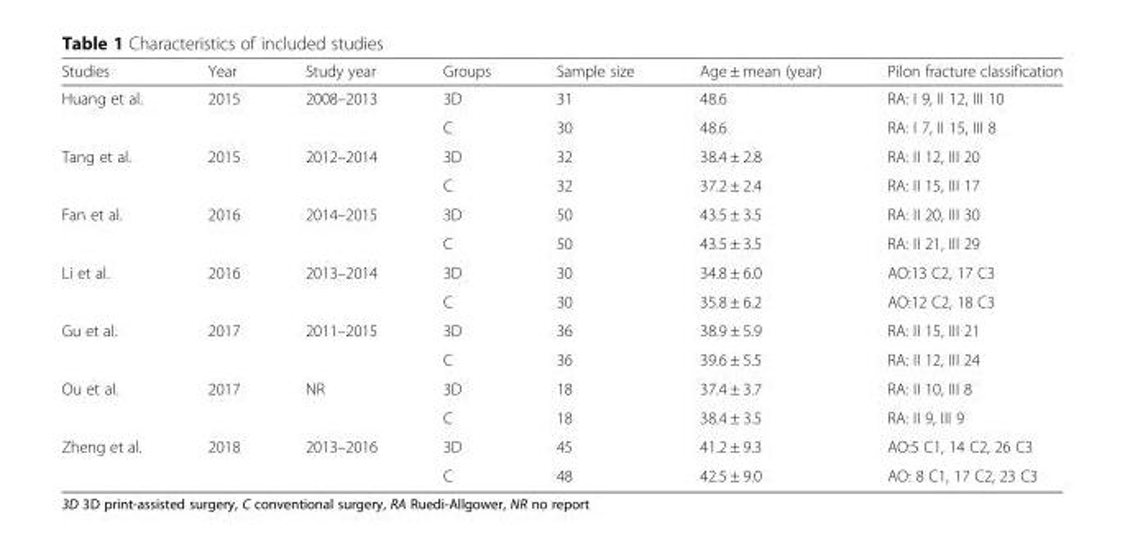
<table><thead><tr><td>Studies</td><td>Year</td><td>Study year</td><td>Groups</td><td>Sample size</td><td>Age ± mean (year)</td><td>Pilon fracture classification</td></tr></thead><tbody><tr><td rowspan="2">Huang et al.</td><td rowspan="2">2015</td><td rowspan="2">2008–2013</td><td>3D</td><td>31</td><td>48.6</td><td>RA: I 9, II 12, III 10</td></tr><tr><td>C</td><td>30</td><td>48.6</td><td>RA: I 7, II 15, III 8</td></tr><tr><td rowspan="2">Tang et al.</td><td rowspan="2">2015</td><td rowspan="2">2012–2014</td><td>3D</td><td>32</td><td>38.4 ± 2.8</td><td>RA: II 12, III 20</td></tr><tr><td>C</td><td>32</td><td>37.2 ± 2.4</td><td>RA: II 15, III 17</td></tr><tr><td rowspan="2">Fan et al.</td><td rowspan="2">2016</td><td rowspan="2">2014–2015</td><td>3D</td><td>50</td><td>43.5 ± 3.5</td><td>RA: II 20, III 30</td></tr><tr><td>C</td><td>50</td><td>43.5 ± 3.5</td><td>RA: II 21, III 29</td></tr><tr><td rowspan="2">Li et al.</td><td rowspan="2">2016</td><td rowspan="2">2013–2014</td><td>3D</td><td>30</td><td>34.8 ± 6.0</td><td>AO:13 C2, 17 C3</td></tr><tr><td>C</td><td>30</td><td>35.8 ± 6.2</td><td>AO:12 C2, 18 C3</td></tr><tr><td rowspan="2">Gu et al.</td><td rowspan="2">2017</td><td rowspan="2">2011–2015</td><td>3D</td><td>36</td><td>38.9 ± 5.9</td><td>RA: II 15, III 21</td></tr><tr><td>C</td><td>36</td><td>39.6 ± 5.5</td><td>RA: II 12, III 24</td></tr><tr><td rowspan="2">Ou et al.</td><td rowspan="2">2017</td><td rowspan="2">NR</td><td>3D</td><td>18</td><td>37.4 ± 3.7</td><td>RA: II 10, III 8</td></tr><tr><td>C</td><td>18</td><td>38.4 ± 3.5</td><td>RA: II 9, III 9</td></tr><tr><td rowspan="2">Zheng et al.</td><td rowspan="2">2018</td><td rowspan="2">2013–2016</td><td>3D</td><td>45</td><td>41.2 ± 9.3</td><td>AO:5 C1, 14 C2, 26 C3</td></tr><tr><td>C</td><td>48</td><td>42.5 ± 9.0</td><td>AO: 8 C1, 17 C2, 23 C3</td></tr></tbody></table>